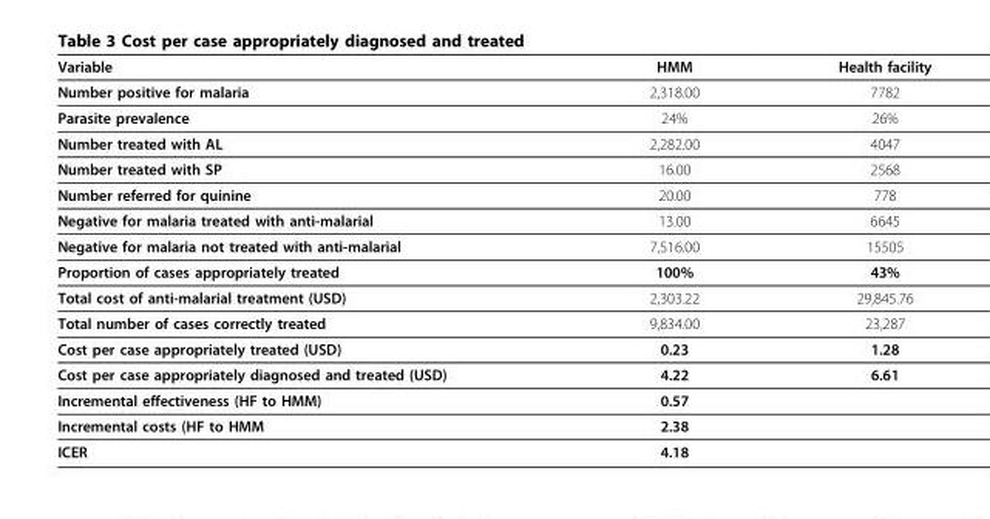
<table><thead><tr><td>Variable</td><td>HMM</td><td>Health facility</td></tr></thead><tbody><tr><td>Number positive for malaria</td><td>2,318.00</td><td>7782</td></tr><tr><td>Parasite prevalence</td><td>24%</td><td>26%</td></tr><tr><td>Number treated with AL</td><td>2,282.00</td><td>4047</td></tr><tr><td>Number treated with SP</td><td>16.00</td><td>2568</td></tr><tr><td>Number referred for quinine</td><td>20.00</td><td>778</td></tr><tr><td>Negative for malaria treated with anti-malarial</td><td>13.00</td><td>6645</td></tr><tr><td>Negative for malaria not treated with anti-malarial</td><td>7,516.00</td><td>15505</td></tr><tr><td>Proportion of cases appropriately treated</td><td>100%</td><td>43%</td></tr><tr><td>Total cost of anti-malarial treatment (USD)</td><td>2,303.22</td><td>29,845.76</td></tr><tr><td>Total number of cases correctly treated</td><td>9,834.00</td><td>23,287</td></tr><tr><td>Cost per case appropriately treated (USD)</td><td>0.23</td><td>1.28</td></tr><tr><td>Cost per case appropriately diagnosed and treated (USD)</td><td>4.22</td><td>6.61</td></tr><tr><td>Incremental effectiveness (HF to HMM)</td><td>0.57</td><td></td></tr><tr><td>Incremental costs (HF to HMM</td><td>2.38</td><td></td></tr><tr><td>ICER</td><td>4.18</td><td></td></tr></tbody></table>